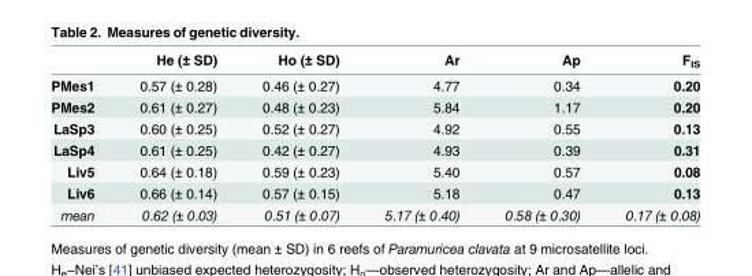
<table><thead><tr><td></td><td>He (± SD)</td><td>Ho (± SD)</td><td>Ar</td><td>Ap</td><td>F<sub>IS</sub></td></tr></thead><tbody><tr><td>PMes1</td><td>0.57 (± 0.28)</td><td>0.46 (± 0.27)</td><td>4.77</td><td>0.34</td><td>0.20</td></tr><tr><td>PMes2</td><td>0.61 (± 0.27)</td><td>0.48 (± 0.23)</td><td>5.84</td><td>1.17</td><td>0.20</td></tr><tr><td>LaSp3</td><td>0.60 (± 0.25)</td><td>0.52 (± 0.27)</td><td>4.92</td><td>0.55</td><td>0.13</td></tr><tr><td>LaSp4</td><td>0.61 (± 0.25)</td><td>0.42 (± 0.27)</td><td>4.93</td><td>0.39</td><td>0.31</td></tr><tr><td>Liv5</td><td>0.64 (± 0.18)</td><td>0.59 (± 0.23)</td><td>5.40</td><td>0.57</td><td>0.08</td></tr><tr><td>Liv6</td><td>0.66 (± 0.14)</td><td>0.57 (± 0.15)</td><td>5.18</td><td>0.47</td><td>0.13</td></tr><tr><td>mean</td><td>0.62 (± 0.03)</td><td>0.51 (± 0.07)</td><td>5.17 (± 0.40)</td><td>0.58 (± 0.30)</td><td>0.17 (± 0.08)</td></tr></tbody></table>